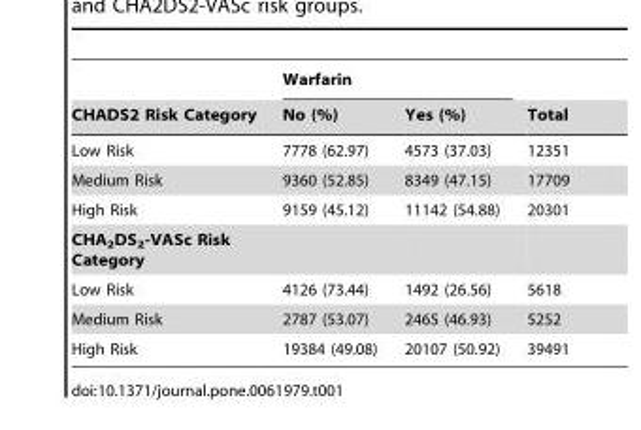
<table><thead><tr><td rowspan="2">CHADS2 Risk Category</td><td colspan="2">Warfarin</td><td rowspan="2">Total</td></tr><tr><td>No (%)</td><td>Yes (%)</td></tr></thead><tbody><tr><td>Low Risk</td><td>7778 (62.97)</td><td>4573 (37.03)</td><td>12351</td></tr><tr><td>Medium Risk</td><td>9360 (52.85)</td><td>8349 (47.15)</td><td>17709</td></tr><tr><td>High Risk</td><td>9159 (45.12)</td><td>11142 (54.88)</td><td>20301</td></tr><tr><td colspan="4">CHA<sub>2</sub>DS<sub>2</sub>-VASc Risk Category</td></tr><tr><td>Low Risk</td><td>4126 (73.44)</td><td>1492 (26.56)</td><td>5618</td></tr><tr><td>Medium Risk</td><td>2787 (53.07)</td><td>2465 (46.93)</td><td>5252</td></tr><tr><td>High Risk</td><td>19384 (49.08)</td><td>20107 (50.92)</td><td>39491</td></tr></tbody></table>